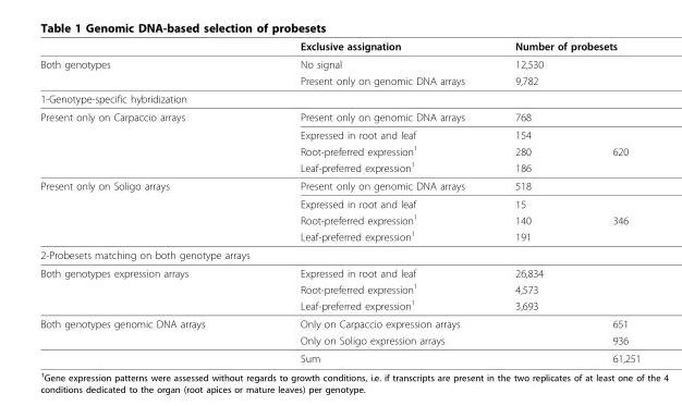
<table><thead><tr><td rowspan="2">Both genotypes</td><td rowspan="2">Exclusive assignation No signal</td><td colspan="2">Number of probesets</td></tr><tr><td>12,530</td><td></td></tr></thead><tbody><tr><td></td><td>Present only on genomic DNA arrays</td><td>9,782</td><td></td></tr><tr><td colspan="4">1-Genotype-specific hybridization</td></tr><tr><td rowspan="4">Present only on Carpaccio arrays</td><td>Present only on genomic DNA arrays</td><td>768</td><td></td></tr><tr><td>Expressed in root and leaf</td><td>154</td><td></td></tr><tr><td>Root-preferred expression<sup>1</sup></td><td>280</td><td>620</td></tr><tr><td>Leaf-preferred expression<sup>1</sup></td><td>186</td><td></td></tr><tr><td rowspan="4">Present only on Soligo arrays</td><td>Present only on genomic DNA arrays</td><td>518</td><td></td></tr><tr><td>Expressed in root and leaf</td><td>15</td><td></td></tr><tr><td>Root-preferred expression<sup>1</sup></td><td>140</td><td>346</td></tr><tr><td>Leaf-preferred expression<sup>1</sup></td><td>191</td><td></td></tr><tr><td colspan="4">2-Probesets matching on both genotype arrays</td></tr><tr><td rowspan="3">Both genotypes expression arrays</td><td>Expressed in root and leaf</td><td>26,834</td><td></td></tr><tr><td>Root-preferred expression<sup>1</sup></td><td>4,573</td><td></td></tr><tr><td>Leaf-preferred expression<sup>1</sup></td><td>3,693</td><td></td></tr><tr><td rowspan="3">Both genotypes genomic DNA arrays</td><td>Only on Carpaccio expression arrays</td><td></td><td>651</td></tr><tr><td>Only on Soligo expression arrays</td><td></td><td>936</td></tr><tr><td colspan="2">Sum</td><td>61,251</td></tr></tbody></table>